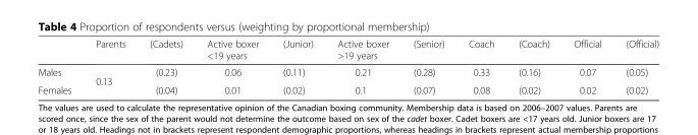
<table><thead><tr><td></td><td>Parents</td><td>(Cadets)</td><td>Active boxer &lt;19 years</td><td>(Junior)</td><td>Active boxer &gt;19 years</td><td>(Senior)</td><td>Coach</td><td>(Coach)</td><td>Official</td><td>(Official)</td></tr></thead><tbody><tr><td>Males</td><td rowspan="2">0.13</td><td>(0.23)</td><td>0.06</td><td>(0.11)</td><td>0.21</td><td>(0.28)</td><td>0.33</td><td>(0.16)</td><td>0.07</td><td>(0.05)</td></tr><tr><td>Females</td><td>(0.04)</td><td>0.01</td><td>(0.02)</td><td>0.1</td><td>(0.07)</td><td>0.08</td><td>(0.02)</td><td>0.02</td><td>(0.02)</td></tr></tbody></table>